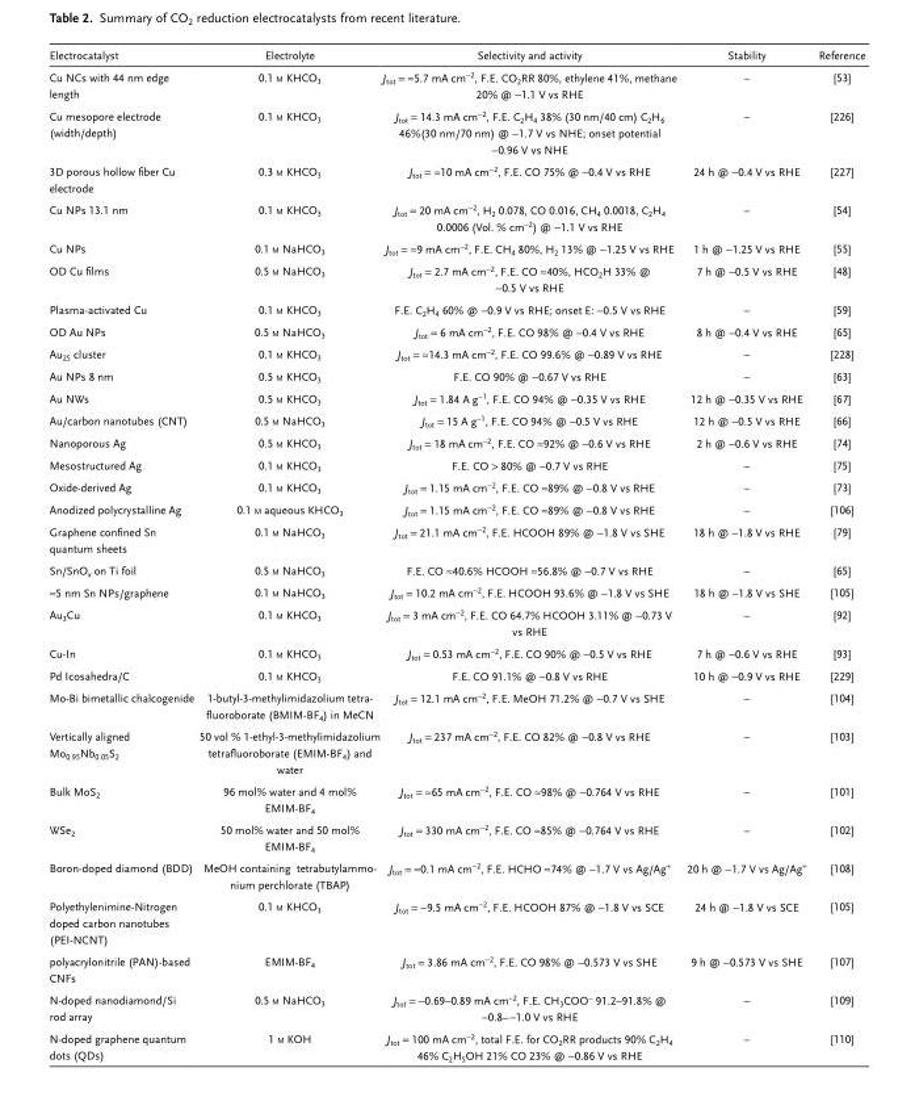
<table><thead><tr><td>Electrocatalyst</td><td>Electrolyte</td><td>Selectivity and activity</td><td>Stability</td><td>Reference</td></tr></thead><tbody><tr><td>Cu NCs with 44 nm edge length</td><td>0.1 m KHCO<sub>3</sub></td><td>J<sub>tot</sub> = ≈5.7 mA cm<sup>−2</sup>, F.E. CO<sub>2</sub>RR 80%, ethylene 41%, methane 20% @ −1.1 V vs RHE</td><td>–</td><td>[53]</td></tr><tr><td>Cu mesopore electrode (width/depth)</td><td>0.1 m KHCO<sub>3</sub></td><td>J<sub>tot</sub> = 14.3 mA cm<sup>−2</sup>, F.E. C<sub>2</sub>H<sub>4</sub> 38% (30 nm/40 cm) C<sub>2</sub>H<sub>6</sub> 46%(30 nm/70 nm) @ −1.7 V vs NHE; onset potential −0.96 V vs NHE</td><td>–</td><td>[226]</td></tr><tr><td>3D porous hollow fiber Cu electrode</td><td>0.3 m KHCO<sub>3</sub></td><td>J<sub>tot</sub> = ≈10 mA cm<sup>−2</sup>, F.E. CO 75% @ −0.4 V vs RHE</td><td>24 h @ −0.4 V vs RHE</td><td>[227]</td></tr><tr><td>Cu NPs 13.1 nm</td><td>0.1 m KHCO<sub>3</sub></td><td>J<sub>tot</sub> = 20 mA cm<sup>−2</sup>, H<sub>2</sub> 0.078, CO 0.016, CH<sub>4</sub> 0.0018, C<sub>2</sub>H<sub>4</sub> 0.0006 (Vol. % cm<sup>−2</sup>) @ −1.1 V vs RHE</td><td>–</td><td>[54]</td></tr><tr><td>Cu NPs</td><td>0.1 m NaHCO<sub>3</sub></td><td>J<sub>tot</sub> = ≈9 mA cm<sup>−2</sup>, F.E. CH<sub>4</sub> 80%, H<sub>2</sub> 13% @ −1.25 V vs RHE</td><td>1 h @ −1.25 V vs RHE</td><td>[55]</td></tr><tr><td>OD Cu films</td><td>0.5 m NaHCO<sub>3</sub></td><td>J<sub>tot</sub> = 2.7 mA cm<sup>−2</sup>, F.E. CO ≈40%, HCO<sub>2</sub>H 33% @ −0.5 V vs RHE</td><td>7 h @ −0.5 V vs RHE</td><td>[48]</td></tr><tr><td>Plasma-activated Cu</td><td>0.1 m KHCO<sub>3</sub></td><td>F.E. C<sub>2</sub>H<sub>4</sub> 60% @ −0.9 V vs RHE; onset E: −0.5 V vs RHE</td><td>–</td><td>[59]</td></tr><tr><td>OD Au NPs</td><td>0.5 m NaHCO<sub>3</sub></td><td>J<sub>tot</sub> = 6 mA cm<sup>−2</sup>, F.E. CO 98% @ −0.4 V vs RHE</td><td>8 h @ −0.4 V vs RHE</td><td>[65]</td></tr><tr><td>Au<sub>25</sub> cluster</td><td>0.1 m KHCO<sub>3</sub></td><td>J<sub>tot</sub> = ≈14.3 mA cm<sup>−2</sup>, F.E. CO 99.6% @ −0.89 V vs RHE</td><td>–</td><td>[228]</td></tr><tr><td>Au NPs 8 nm</td><td>0.5 m KHCO<sub>3</sub></td><td>F.E. CO 90% @ −0.67 V vs RHE</td><td>–</td><td>[63]</td></tr><tr><td>Au NWs</td><td>0.5 m KHCO<sub>3</sub></td><td>J<sub>tot</sub> = 1.84 A g<sup>−1</sup>, F.E. CO 94% @ −0.35 V vs RHE</td><td>12 h @ −0.35 V vs RHE</td><td>[67]</td></tr><tr><td>Au/carbon nanotubes (CNT)</td><td>0.5 m NaHCO<sub>3</sub></td><td>J<sub>tot</sub> = 15 A g<sup>−1</sup>, F.E. CO 94% @ −0.5 V vs RHE</td><td>12 h @ −0.5 V vs RHE</td><td>[66]</td></tr><tr><td>Nanoporous Ag</td><td>0.5 m KHCO<sub>3</sub></td><td>J<sub>tot</sub> = 18 mA cm<sup>−2</sup>, F.E. CO ≈92% @ −0.6 V vs RHE</td><td>2 h @ −0.6 V vs RHE</td><td>[74]</td></tr><tr><td>Mesostructured Ag</td><td>0.1 m KHCO<sub>3</sub></td><td>F.E. CO &gt; 80% @ −0.7 V vs RHE</td><td>–</td><td>[75]</td></tr><tr><td>Oxide-derived Ag</td><td>0.1 m KHCO<sub>3</sub></td><td>J<sub>tot</sub> = 1.15 mA cm<sup>−2</sup>, F.E. CO ≈89% @ −0.8 V vs RHE</td><td>–</td><td>[73]</td></tr><tr><td>Anodized polycrystalline Ag</td><td>0.1 m aqueous KHCO<sub>3</sub></td><td>J<sub>tot</sub> = 1.15 mA cm<sup>−2</sup>, F.E. CO ≈89% @ −0.8 V vs RHE</td><td>–</td><td>[106]</td></tr><tr><td>Graphene confined Sn quantum sheets</td><td>0.1 m NaHCO<sub>3</sub></td><td>J<sub>tot</sub> = 21.1 mA cm<sup>−2</sup>, F.E. HCOOH 89% @ −1.8 V vs SHE</td><td>18 h @ −1.8 V vs RHE</td><td>[79]</td></tr><tr><td>Sn/SnO<sub>x</sub> on Ti foil</td><td>0.5 m NaHCO<sub>3</sub></td><td>F.E. CO ≈40.6% HCOOH ≈56.8% @ −0.7 V vs RHE</td><td>–</td><td>[65]</td></tr><tr><td>≈5 nm Sn NPs/graphene</td><td>0.1 m NaHCO<sub>3</sub></td><td>J<sub>tot</sub> = 10.2 mA cm<sup>−2</sup><sub>,</sub> F.E. HCOOH 93.6% @ −1.8 V vs SHE</td><td>18 h @ −1.8 V vs SHE</td><td>[105]</td></tr><tr><td>Au<sub>3</sub>Cu</td><td>0.1 m KHCO<sub>3</sub></td><td>J<sub>tot</sub> = 3 mA cm<sup>−2</sup>, F.E. CO 64.7% HCOOH 3.11% @ −0.73 V vs RHE</td><td>–</td><td>[92]</td></tr><tr><td>Cu-In</td><td>0.1 m KHCO<sub>3</sub></td><td>J<sub>tot</sub> = 0.53 mA cm<sup>−2</sup>, F.E. CO 90% @ −0.5 V vs RHE</td><td>7 h @ −0.6 V vs RHE</td><td>[93]</td></tr><tr><td>Pd Icosahedra/C</td><td>0.1 m KHCO<sub>3</sub></td><td>F.E. CO 91.1% @ −0.8 V vs RHE</td><td>10 h @ −0.9 V vs RHE</td><td>[229]</td></tr><tr><td>Mo-Bi bimetallic chalcogenide</td><td>1-butyl-3-methylimidazolium tetra- fluoroborate (BMIM-BF4) in MeCN</td><td>J<sub>tot</sub> = 12.1 mA cm<sup>−2</sup>, F.E. MeOH 71.2% @ −0.7 V vs SHE</td><td>–</td><td>[104]</td></tr><tr><td>Vertically aligned Mo<sub>0.95</sub>Nb<sub>0.05</sub>S<sub>2</sub></td><td>50 vol % 1-ethyl-3-methylimidazolium tetrafluoroborate (EMIM-BF<sub>4</sub>) and water</td><td>J<sub>tot</sub> = 237 mA cm<sup>−2</sup>, F.E. CO 82% @ −0.8 V vs RHE</td><td>–</td><td>[103]</td></tr><tr><td>Bulk MoS<sub>2</sub></td><td>96 mol% water and 4 mol% EMIM-BF<sub>4</sub></td><td>J<sub>tot</sub> = ≈65 mA cm<sup>−2</sup>, F.E. CO ≈98% @ −0.764 V vs RHE</td><td>–</td><td>[101]</td></tr><tr><td>WSe<sub>2</sub></td><td>50 mol% water and 50 mol% EMIM-BF<sub>4</sub></td><td>J<sub>tot</sub> = 330 mA cm<sup>−2</sup>, F.E. CO ≈85% @ −0.764 V vs RHE</td><td>–</td><td>[102]</td></tr><tr><td>Boron-doped diamond (BDD)</td><td>MeOH containing tetrabutylammo- nium perchlorate (TBAP)</td><td>J<sub>tot</sub> = ≈0.1 mA cm<sup>−2</sup>, F.E. HCHO ≈74% @ −1.7 V vs Ag/Ag<sup>+</sup></td><td>20 h @ −1.7 V vs Ag/Ag<sup>+</sup></td><td>[108]</td></tr><tr><td>Polyethylenimine-Nitrogen doped carbon nanotubes (PEI-NCNT)</td><td>0.1 m KHCO<sub>3</sub></td><td>J<sub>tot</sub> = −9.5 mA cm<sup>−2</sup>, F.E. HCOOH 87% @ −1.8 V vs SCE</td><td>24 h @ −1.8 V vs SCE</td><td>[105]</td></tr><tr><td>polyacrylonitrile (PAN)-based CNFs</td><td>EMIM-BF<sub>4</sub></td><td>J<sub>tot</sub> = 3.86 mA cm<sup>−2</sup>, F.E. CO 98% @ −0.573 V vs SHE</td><td>9 h @ −0.573 V vs SHE</td><td>[107]</td></tr><tr><td>N-doped nanodiamond/Si rod array</td><td>0.5 m NaHCO<sub>3</sub></td><td>J<sub>tot</sub> = −0.69–0.89 mA cm<sup>−2</sup>, F.E. CH<sub>3</sub>COO<sup>−</sup> 91.2–91.8% @ −0.8–−1.0 V vs RHE</td><td>–</td><td>[109]</td></tr><tr><td>N-doped graphene quantum dots (QDs)</td><td>1 m KOH</td><td>J<sub>tot</sub> = 100 mA cm<sup>−2</sup>, total F.E. for CO<sub>2</sub>RR products 90% C<sub>2</sub>H<sub>4</sub> 46% C<sub>2</sub>H<sub>5</sub>OH 21% CO 23% @ −0.86 V vs RHE</td><td>–</td><td>[110]</td></tr></tbody></table>